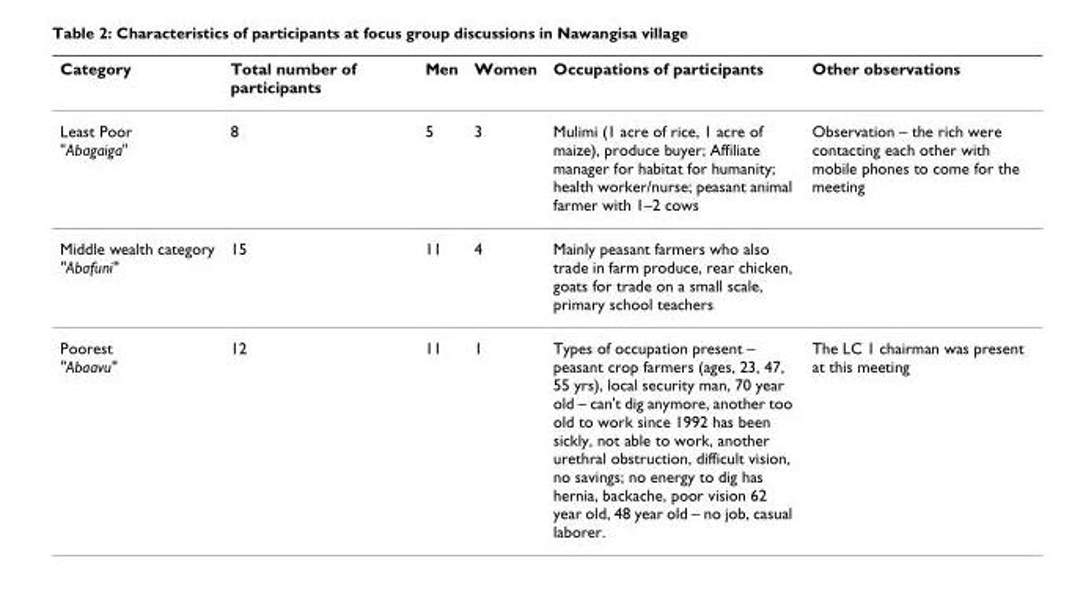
<table><thead><tr><td>Category</td><td>Total number of participants</td><td>Men</td><td>Women</td><td>Occupations of participants</td><td>Other observations</td></tr></thead><tbody><tr><td>Least Poor &quot;Abagaiga&quot;</td><td>8</td><td>5</td><td>3</td><td>Mulimi (1 acre of rice, 1 acre of maize), produce buyer; Affiliate manager for habitat for humanity; health worker/nurse; peasant animal farmer with 1–2 cows</td><td>Observation – the rich were contacting each other with mobile phones to come for the meeting</td></tr><tr><td>Middle wealth category &quot;Abafuni&quot;</td><td>15</td><td>11</td><td>4</td><td>Mainly peasant farmers who also trade in farm produce, rear chicken, goats for trade on a small scale, primary school teachers</td><td></td></tr><tr><td>Poorest &quot;Abaavu&quot;</td><td>12</td><td>11</td><td>1</td><td>Types of occupation present – peasant crop farmers (ages, 23, 47, 55 yrs), local security man, 70 year old – can&#x27;t dig anymore, another too old to work since 1992 has been sickly, not able to work, another urethral obstruction, difficult vision, no savings; no energy to dig has hernia, backache, poor vision 62 year old, 48 year old – no job, casual laborer.</td><td>The LC 1 chairman was present at this meeting</td></tr></tbody></table>